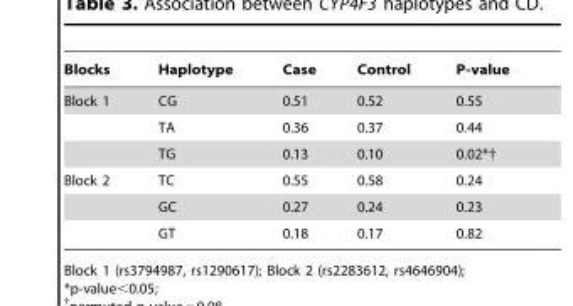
<table><thead><tr><td>Blocks</td><td>Haplotype</td><td>Case</td><td>Control</td><td>P-value</td></tr></thead><tbody><tr><td rowspan="3">Block 1</td><td>CG</td><td>0.51</td><td>0.52</td><td>0.55</td></tr><tr><td>TA</td><td>0.36</td><td>0.37</td><td>0.44</td></tr><tr><td>TG</td><td>0.13</td><td>0.10</td><td>0.02*†</td></tr><tr><td rowspan="3">Block 2</td><td>TC</td><td>0.55</td><td>0.58</td><td>0.24</td></tr><tr><td>GC</td><td>0.27</td><td>0.24</td><td>0.23</td></tr><tr><td>GT</td><td>0.18</td><td>0.17</td><td>0.82</td></tr></tbody></table>